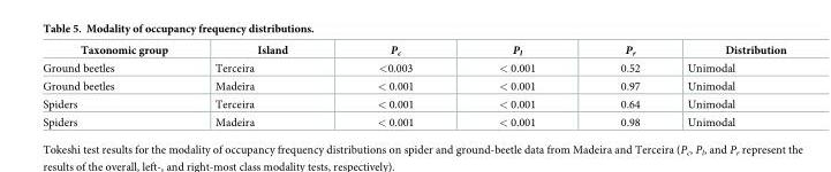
<table><thead><tr><td>Taxonomic group</td><td>Island</td><td>P<sub>c</sub></td><td>P<sub>l</sub></td><td>P<sub>r</sub></td><td>Distribution</td></tr></thead><tbody><tr><td>Ground beetles</td><td>Terceira</td><td>&lt;0.003</td><td>&lt; 0.001</td><td>0.52</td><td>Unimodal</td></tr><tr><td>Ground beetles</td><td>Madeira</td><td>&lt; 0.001</td><td>&lt; 0.001</td><td>0.97</td><td>Unimodal</td></tr><tr><td>Spiders</td><td>Terceira</td><td>&lt; 0.001</td><td>&lt; 0.001</td><td>0.64</td><td>Unimodal</td></tr><tr><td>Spiders</td><td>Madeira</td><td>&lt; 0.001</td><td>&lt; 0.001</td><td>0.98</td><td>Unimodal</td></tr></tbody></table>